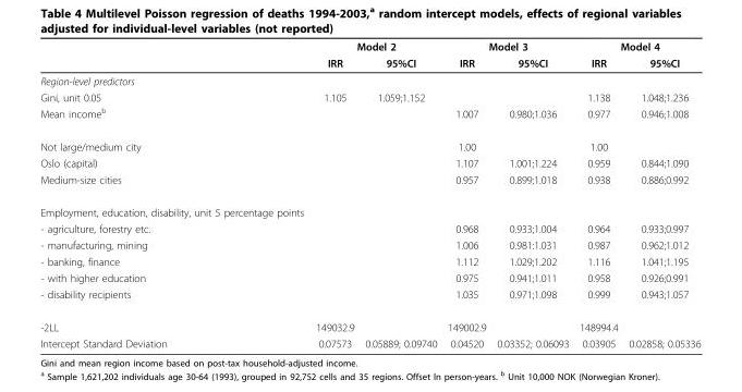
<table><thead><tr><td rowspan="2"></td><td colspan="2">Model 2</td><td colspan="2">Model 3</td><td colspan="2">Model 4</td></tr><tr><td>IRR</td><td>95%CI</td><td>IRR</td><td>95%CI</td><td>IRR</td><td>95%CI</td></tr></thead><tbody><tr><td colspan="7">Region-level predictors</td></tr><tr><td>Gini, unit 0.05</td><td>1.105</td><td>1.059;1.152</td><td></td><td></td><td>1.138</td><td>1.048;1.236</td></tr><tr><td>Mean income<sup>b</sup></td><td></td><td></td><td>1.007</td><td>0.980;1.036</td><td>0.977</td><td>0.946;1.008</td></tr><tr><td>Not large/medium city</td><td></td><td></td><td>1.00</td><td></td><td>1.00</td><td></td></tr><tr><td>Oslo (capital)</td><td></td><td></td><td>1.107</td><td>1.001;1.224</td><td>0.959</td><td>0.844;1.090</td></tr><tr><td>Medium-size cities</td><td></td><td></td><td>0.957</td><td>0.899;1.018</td><td>0.938</td><td>0.886;0.992</td></tr><tr><td colspan="7">Employment, education, disability, unit 5 percentage points</td></tr><tr><td>- agriculture, forestry etc.</td><td></td><td></td><td>0.968</td><td>0.933;1.004</td><td>0.964</td><td>0.933;0.997</td></tr><tr><td>- manufacturing, mining</td><td></td><td></td><td>1.006</td><td>0.981:1.031</td><td>0.987</td><td>0.962;1.012</td></tr><tr><td>- banking, finance</td><td></td><td></td><td>1.112</td><td>1.029;1.202</td><td>1.116</td><td>1.041;1.195</td></tr><tr><td>- with higher education</td><td></td><td></td><td>0.975</td><td>0.941;1.011</td><td>0.958</td><td>0.926;0.991</td></tr><tr><td>- disability recipients</td><td></td><td></td><td>1.035</td><td>0.971;1.098</td><td>0.999</td><td>0.943;1.057</td></tr><tr><td>-2LL</td><td>149032.9</td><td></td><td>149002.9</td><td></td><td>148994.4</td><td></td></tr><tr><td>Intercept Standard Deviation</td><td>0.07573</td><td>0.05889; 0.09740</td><td>0.04520</td><td>0.03352; 0.06093</td><td>0.03905</td><td>0.02858; 0.05336</td></tr></tbody></table>